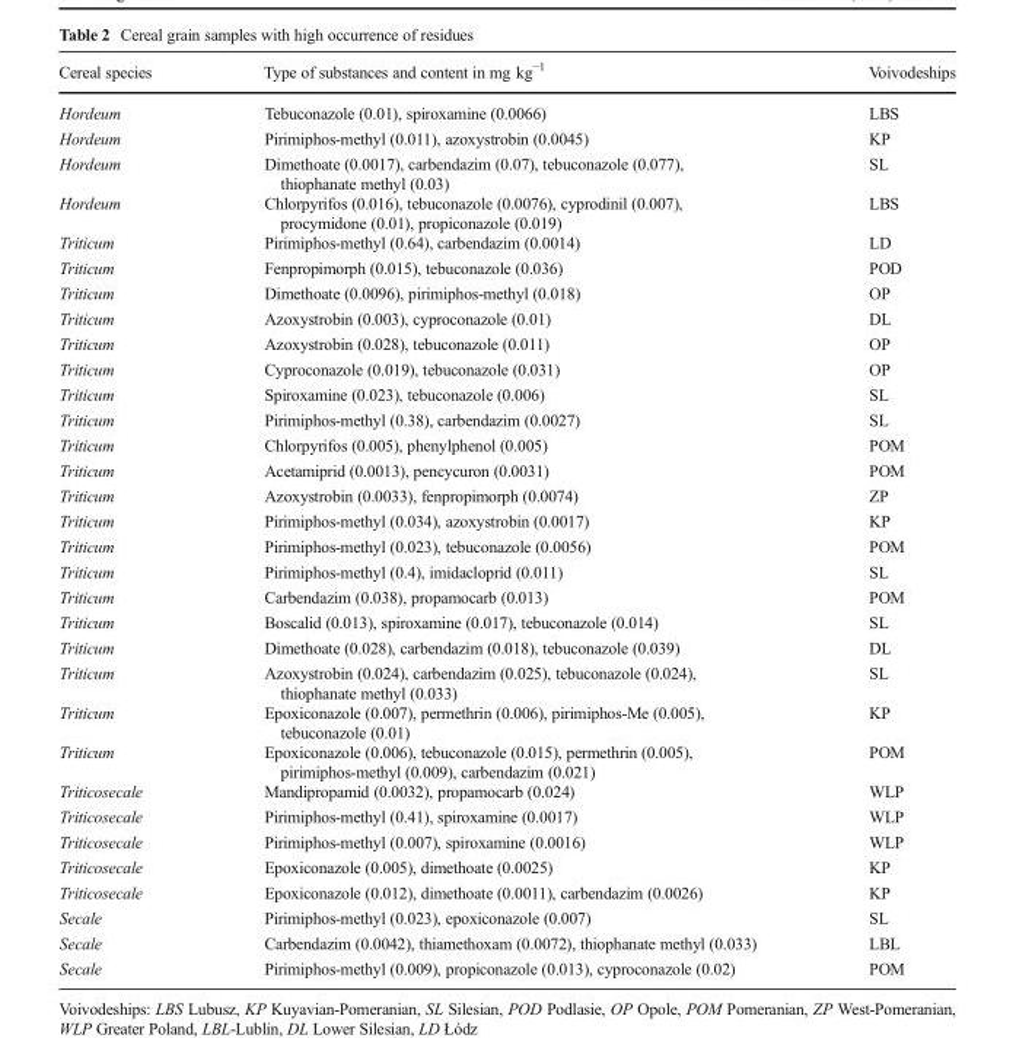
<table><thead><tr><td>Cereal species</td><td>Type of substances and content in mg kg<sup>−1</sup></td><td>Voivodeships</td></tr></thead><tbody><tr><td>Hordeum</td><td>Tebuconazole (0.01), spiroxamine (0.0066)</td><td>LBS</td></tr><tr><td>Hordeum</td><td>Pirimiphos-methyl (0.011), azoxystrobin (0.0045)</td><td>KP</td></tr><tr><td>Hordeum</td><td>Dimethoate (0.0017), carbendazim (0.07), tebuconazole (0.077), thiophanate methyl (0.03)</td><td>SL</td></tr><tr><td>Hordeum</td><td>Chlorpyrifos (0.016), tebuconazole (0.0076), cyprodinil (0.007), procymidone (0.01), propiconazole (0.019)</td><td>LBS</td></tr><tr><td>Triticum</td><td>Pirimiphos-methyl (0.64), carbendazim (0.0014)</td><td>LD</td></tr><tr><td>Triticum</td><td>Fenpropimorph (0.015), tebuconazole (0.036)</td><td>POD</td></tr><tr><td>Triticum</td><td>Dimethoate (0.0096), pirimiphos-methyl (0.018)</td><td>OP</td></tr><tr><td>Triticum</td><td>Azoxystrobin (0.003), cyproconazole (0.01)</td><td>DL</td></tr><tr><td>Triticum</td><td>Azoxystrobin (0.028), tebuconazole (0.011)</td><td>OP</td></tr><tr><td>Triticum</td><td>Cyproconazole (0.019), tebuconazole (0.031)</td><td>OP</td></tr><tr><td>Triticum</td><td>Spiroxamine (0.023), tebuconazole (0.006)</td><td>SL</td></tr><tr><td>Triticum</td><td>Pirimiphos-methyl (0.38), carbendazim (0.0027)</td><td>SL</td></tr><tr><td>Triticum</td><td>Chlorpyrifos (0.005), phenylphenol (0.005)</td><td>POM</td></tr><tr><td>Triticum</td><td>Acetamiprid (0.0013), pencycuron (0.0031)</td><td>POM</td></tr><tr><td>Triticum</td><td>Azoxystrobin (0.0033), fenpropimorph (0.0074)</td><td>ZP</td></tr><tr><td>Triticum</td><td>Pirimiphos-methyl (0.034), azoxystrobin (0.0017)</td><td>KP</td></tr><tr><td>Triticum</td><td>Pirimiphos-methyl (0.023), tebuconazole (0.0056)</td><td>POM</td></tr><tr><td>Triticum</td><td>Pirimiphos-methyl (0.4), imidacloprid (0.011)</td><td>SL</td></tr><tr><td>Triticum</td><td>Carbendazim (0.038), propamocarb (0.013)</td><td>POM</td></tr><tr><td>Triticum</td><td>Boscalid (0.013), spiroxamine (0.017), tebuconazole (0.014)</td><td>SL</td></tr><tr><td>Triticum</td><td>Dimethoate (0.028), carbendazim (0.018), tebuconazole (0.039)</td><td>DL</td></tr><tr><td>Triticum</td><td>Azoxystrobin (0.024), carbendazim (0.025), tebuconazole (0.024), thiophanate methyl (0.033)</td><td>SL</td></tr><tr><td>Triticum</td><td>Epoxiconazole (0.007), permethrin (0.006), pirimiphos-Me (0.005), tebuconazole (0.01)</td><td>KP</td></tr><tr><td>Triticum</td><td>Epoxiconazole (0.006), tebuconazole (0.015), permethrin (0.005), pirimiphos-methyl (0.009), carbendazim (0.021)</td><td>POM</td></tr><tr><td>Triticosecale</td><td>Mandipropamid (0.0032), propamocarb (0.024)</td><td>WLP</td></tr><tr><td>Triticosecale</td><td>Pirimiphos-methyl (0.41), spiroxamine (0.0017)</td><td>WLP</td></tr><tr><td>Triticosecale</td><td>Pirimiphos-methyl (0.007), spiroxamine (0.0016)</td><td>WLP</td></tr><tr><td>Triticosecale</td><td>Epoxiconazole (0.005), dimethoate (0.0025)</td><td>KP</td></tr><tr><td>Triticosecale</td><td>Epoxiconazole (0.012), dimethoate (0.0011), carbendazim (0.0026)</td><td>KP</td></tr><tr><td>Secale</td><td>Pirimiphos-methyl (0.023), epoxiconazole (0.007)</td><td>SL</td></tr><tr><td>Secale</td><td>Carbendazim (0.0042), thiamethoxam (0.0072), thiophanate methyl (0.033)</td><td>LBL</td></tr><tr><td>Secale</td><td>Pirimiphos-methyl (0.009), propiconazole (0.013), cyproconazole (0.02)</td><td>POM</td></tr></tbody></table>